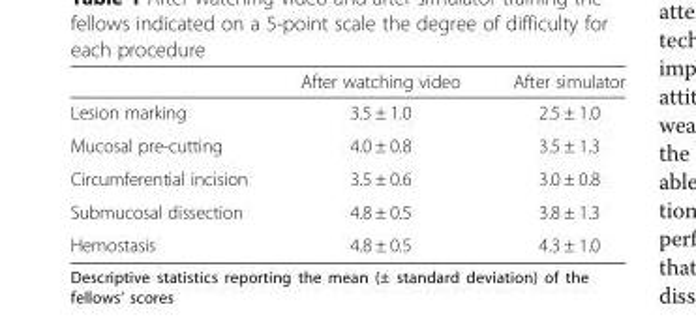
<table><thead><tr><td></td><td>After watching video</td><td>After simulator</td></tr></thead><tbody><tr><td>Lesion marking</td><td>3.5 ± 1.0</td><td>2.5 ± 1.0</td></tr><tr><td>Mucosal pre-cutting</td><td>4.0 ± 0.8</td><td>3.5 ± 1.3</td></tr><tr><td>Circumferential incision</td><td>3.5 ± 0.6</td><td>3.0 ± 0.8</td></tr><tr><td>Submucosal dissection</td><td>4.8 ± 0.5</td><td>3.8 ± 1.3</td></tr><tr><td>Hemostasis</td><td>4.8 ± 0.5</td><td>4.3 ± 1.0</td></tr></tbody></table>